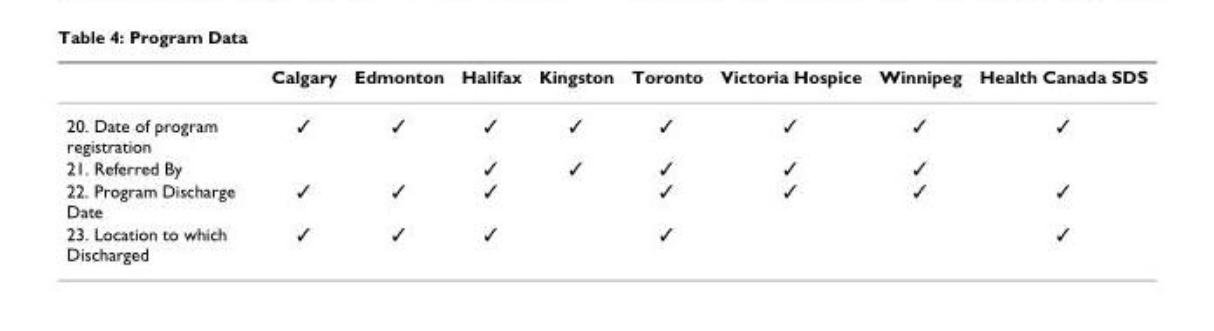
<table><thead><tr><td></td><td>Calgary</td><td>Edmonton</td><td>Halifax</td><td>Kingston</td><td>Toronto</td><td>Victoria Hospice</td><td>Winnipeg</td><td>Health Canada SDS</td></tr></thead><tbody><tr><td>20. Date of program registration</td><td>✓</td><td>✓</td><td>✓</td><td>✓</td><td>✓</td><td>✓</td><td>✓</td><td>✓</td></tr><tr><td>21. Referred By</td><td></td><td></td><td>✓</td><td>✓</td><td>✓</td><td>✓</td><td>✓</td><td></td></tr><tr><td>22. Program Discharge Date</td><td>✓</td><td>✓</td><td>✓</td><td></td><td>✓</td><td>✓</td><td>✓</td><td>✓</td></tr><tr><td>23. Location to which Discharged</td><td>✓</td><td>✓</td><td>✓</td><td></td><td>✓</td><td></td><td></td><td>✓</td></tr></tbody></table>